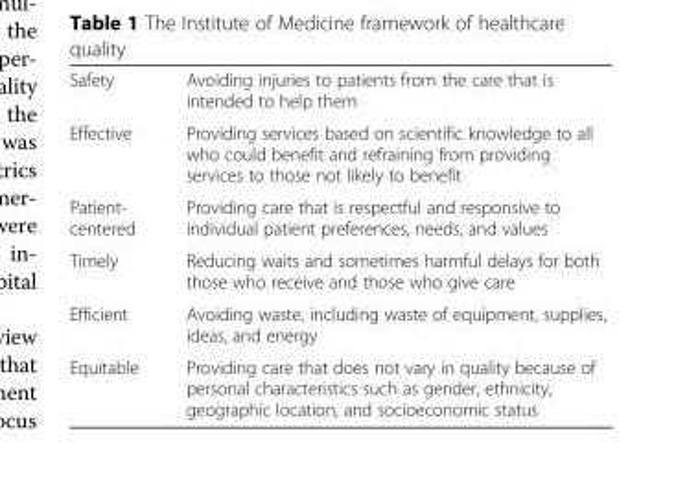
<table><tbody><tr><td>Safety</td><td>Avoiding injuries to patients from the care that is intended to help them</td></tr><tr><td>Effective</td><td>Providing services based on scientific knowledge to all who could benefit and refraining from providing services to those not likely to benefit</td></tr><tr><td>Patient- centered</td><td>Providing care that is respectful and responsive to individual patient preferences, needs, and values</td></tr><tr><td>Timely</td><td>Reducing waits and sometimes harmful delays for both those who receive and those who give care</td></tr><tr><td>Efficient</td><td>Avoiding waste, including waste of equipment, supplies, ideas, and energy</td></tr><tr><td>Equitable</td><td>Providing care that does not vary in quality because of personal characteristics such as gender, ethnicity, geographic location, and socioeconomic status</td></tr></tbody></table>